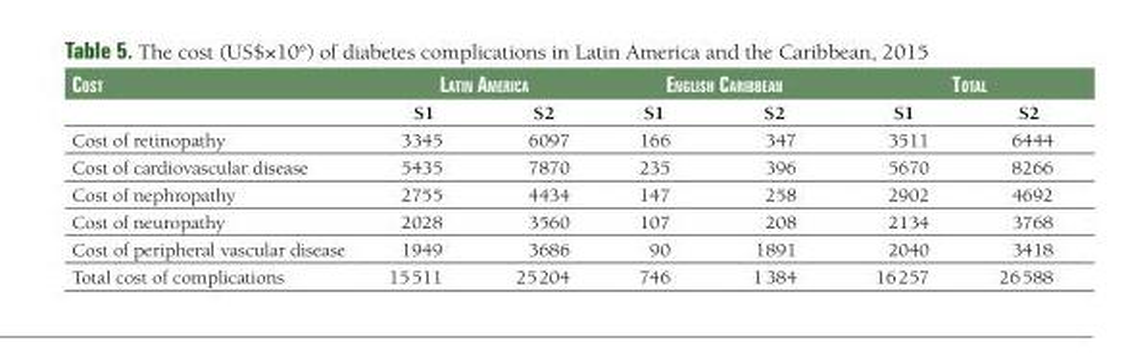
<table><thead><tr><td rowspan="2">cost</td><td colspan="2">LatIn amerIca</td><td colspan="2">engLIsh carIbbean</td><td colspan="2">totaL</td></tr><tr><td>S1</td><td>S2</td><td>S1</td><td>S2</td><td>S1</td><td>S2</td></tr></thead><tbody><tr><td>Cost of retinopathy</td><td>3345</td><td>6097</td><td>166</td><td>347</td><td>3511</td><td>6444</td></tr><tr><td>Cost of cardiovascular disease</td><td>5435</td><td>7870</td><td>235</td><td>396</td><td>5670</td><td>8266</td></tr><tr><td>Cost of nephropathy</td><td>2755</td><td>4434</td><td>147</td><td>258</td><td>2902</td><td>4692</td></tr><tr><td>Cost of neuropathy</td><td>2028</td><td>3560</td><td>107</td><td>208</td><td>2134</td><td>3768</td></tr><tr><td>Cost of peripheral vascular disease</td><td>1949</td><td>3686</td><td>90</td><td>1891</td><td>2040</td><td>3418</td></tr><tr><td>Total cost of complications</td><td>15 511</td><td>25 204</td><td>746</td><td>1 384</td><td>16 257</td><td>26 588</td></tr></tbody></table>